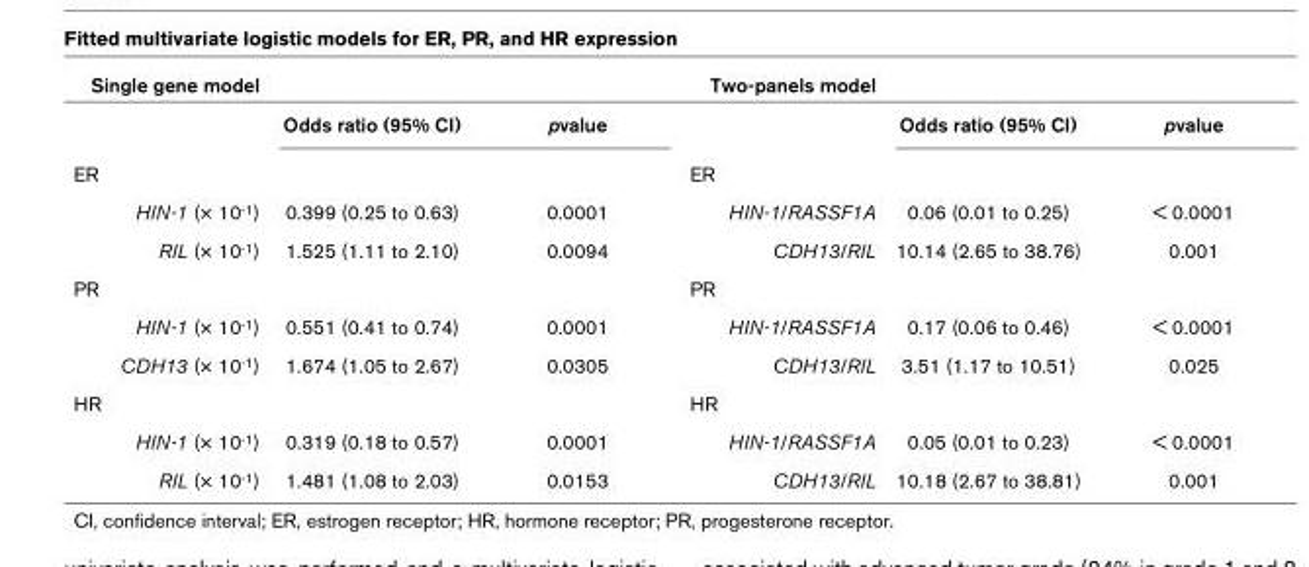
<table><thead><tr><td>Single gene model</td><td></td><td></td><td>Two-panels model</td><td></td><td></td></tr></thead><tbody><tr><td></td><td>Odds ratio (95% CI)</td><td>pvalue</td><td></td><td>Odds ratio (95% CI)</td><td>pvalue</td></tr><tr><td>ER</td><td></td><td></td><td>ER</td><td></td><td></td></tr><tr><td>HIN-1 (× 10<sup>-1</sup>)</td><td>0.399 (0.25 to 0.63)</td><td>0.0001</td><td>HIN-1/RASSF1A</td><td>0.06 (0.01 to 0.25)</td><td>&lt; 0.0001</td></tr><tr><td>RIL (× 10<sup>-1</sup>)</td><td>1.525 (1.11 to 2.10)</td><td>0.0094</td><td>CDH13/RIL</td><td>10.14 (2.65 to 38.76)</td><td>0.001</td></tr><tr><td>PR</td><td></td><td></td><td>PR</td><td></td><td></td></tr><tr><td>HIN-1 (× 10<sup>-1</sup>)</td><td>0.551 (0.41 to 0.74)</td><td>0.0001</td><td>HIN-1/RASSF1A</td><td>0.17 (0.06 to 0.46)</td><td>&lt; 0.0001</td></tr><tr><td>CDH13 (× 10<sup>-1</sup>)</td><td>1.674 (1.05 to 2.67)</td><td>0.0305</td><td>CDH13/RIL</td><td>3.51 (1.17 to 10.51)</td><td>0.025</td></tr><tr><td>HR</td><td></td><td></td><td>HR</td><td></td><td></td></tr><tr><td>HIN-1 (× 10<sup>-1</sup>)</td><td>0.319 (0.18 to 0.57)</td><td>0.0001</td><td>HIN-1/RASSF1A</td><td>0.05 (0.01 to 0.23)</td><td>&lt; 0.0001</td></tr><tr><td>RIL (× 10<sup>-1</sup>)</td><td>1.481 (1.08 to 2.03)</td><td>0.0153</td><td>CDH13/RIL</td><td>10.18 (2.67 to 38.81)</td><td>0.001</td></tr></tbody></table>